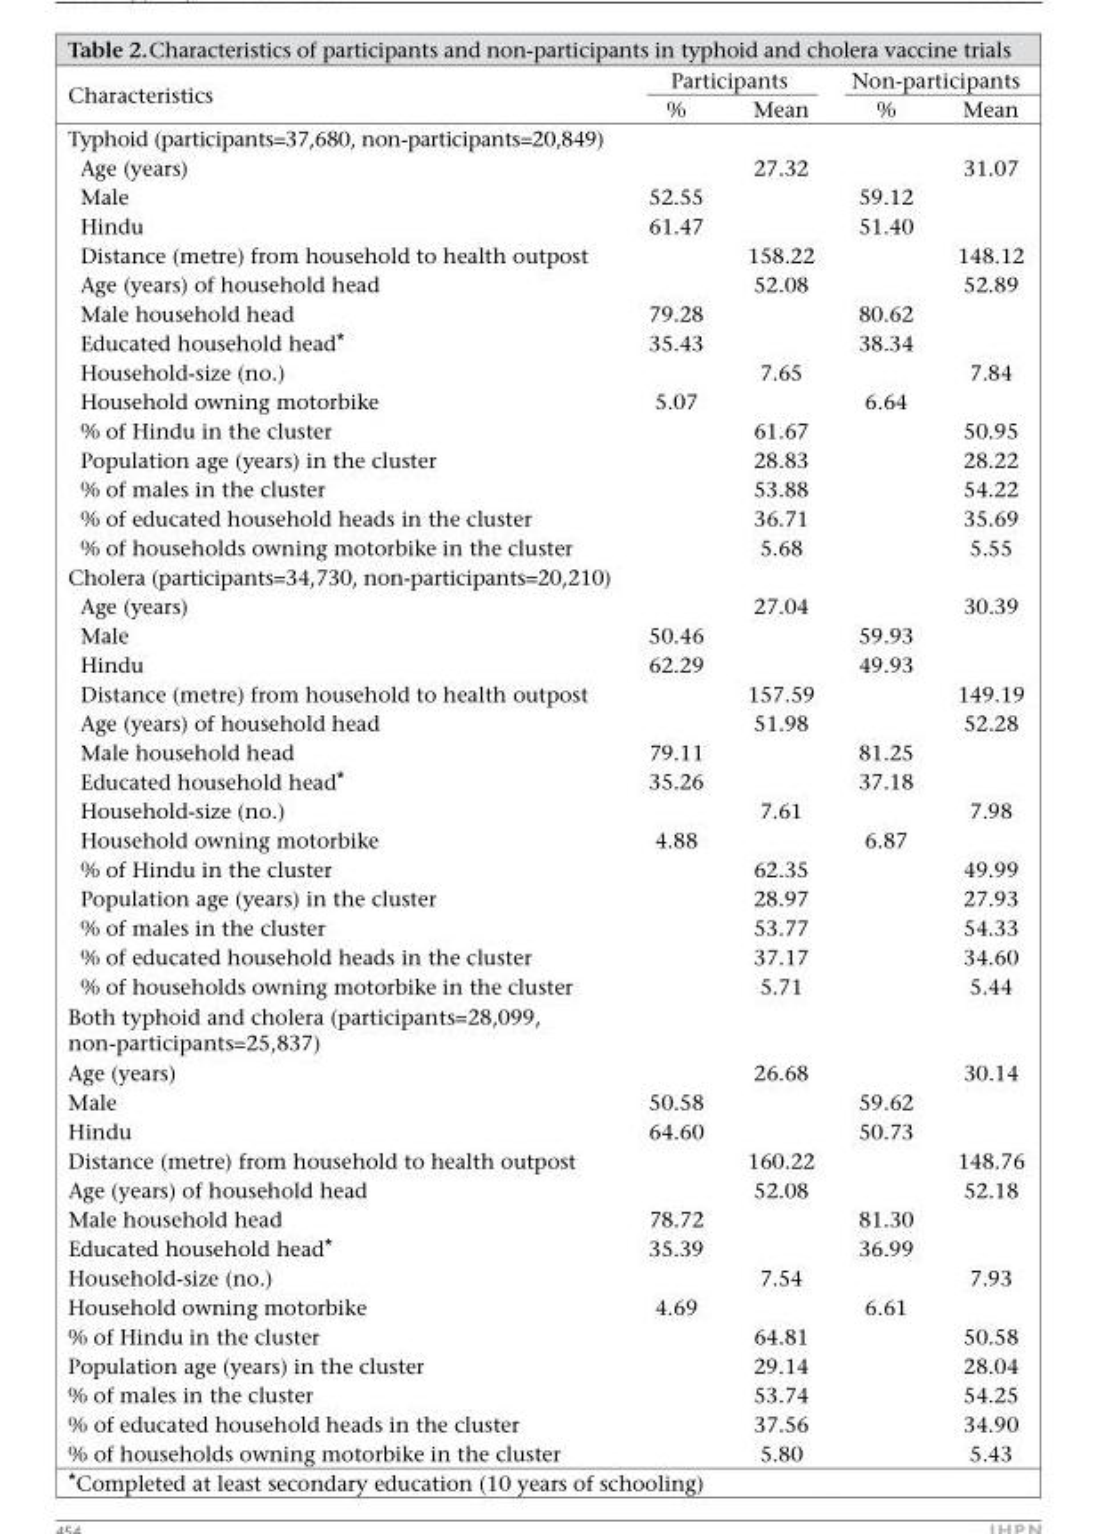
<table><thead><tr><td rowspan="2">Characteristics</td><td colspan="2">Participants</td><td colspan="2">Non-participants</td></tr><tr><td>%</td><td>Mean</td><td>%</td><td>Mean</td></tr></thead><tbody><tr><td colspan="5">Typhoid (participants=37,680, non-participants=20,849)</td></tr><tr><td>Age (years)</td><td></td><td>27.32</td><td></td><td>31.07</td></tr><tr><td>Male</td><td>52.55</td><td></td><td>59.12</td><td></td></tr><tr><td>Hindu</td><td>61.47</td><td></td><td>51.40</td><td></td></tr><tr><td>Distance (metre) from household to health outpost</td><td></td><td>158.22</td><td></td><td>148.12</td></tr><tr><td>Age (years) of household head</td><td></td><td>52.08</td><td></td><td>52.89</td></tr><tr><td>Male household head</td><td>79.28</td><td></td><td>80.62</td><td></td></tr><tr><td>Educated household head*</td><td>35.43</td><td></td><td>38.34</td><td></td></tr><tr><td>Household-size (no.)</td><td></td><td>7.65</td><td></td><td>7.84</td></tr><tr><td>Household owning motorbike</td><td>5.07</td><td></td><td>6.64</td><td></td></tr><tr><td>% of Hindu in the cluster</td><td></td><td>61.67</td><td></td><td>50.95</td></tr><tr><td>Population age (years) in the cluster</td><td></td><td>28.83</td><td></td><td>28.22</td></tr><tr><td>% of males in the cluster</td><td></td><td>53.88</td><td></td><td>54.22</td></tr><tr><td>% of educated household heads in the cluster</td><td></td><td>36.71</td><td></td><td>35.69</td></tr><tr><td>% of households owning motorbike in the cluster</td><td></td><td>5.68</td><td></td><td>5.55</td></tr><tr><td colspan="5">Cholera (participants=34,730, non-participants=20,210)</td></tr><tr><td>Age (years)</td><td></td><td>27.04</td><td></td><td>30.39</td></tr><tr><td>Male</td><td>50.46</td><td></td><td>59.93</td><td></td></tr><tr><td>Hindu</td><td>62.29</td><td></td><td>49.93</td><td></td></tr><tr><td>Distance (metre) from household to health outpost</td><td></td><td>157.59</td><td></td><td>149.19</td></tr><tr><td>Age (years) of household head</td><td></td><td>51.98</td><td></td><td>52.28</td></tr><tr><td>Male household head</td><td>79.11</td><td></td><td>81.25</td><td></td></tr><tr><td>Educated household head*</td><td>35.26</td><td></td><td>37.18</td><td></td></tr><tr><td>Household-size (no.)</td><td></td><td>7.61</td><td></td><td>7.98</td></tr><tr><td>Household owning motorbike</td><td>4.88</td><td></td><td>6.87</td><td></td></tr><tr><td>% of Hindu in the cluster</td><td></td><td>62.35</td><td></td><td>49.99</td></tr><tr><td>Population age (years) in the cluster</td><td></td><td>28.97</td><td></td><td>27.93</td></tr><tr><td>% of males in the cluster</td><td></td><td>53.77</td><td></td><td>54.33</td></tr><tr><td>% of educated household heads in the cluster</td><td></td><td>37.17</td><td></td><td>34.60</td></tr><tr><td>% of households owning motorbike in the cluster</td><td></td><td>5.71</td><td></td><td>5.44</td></tr><tr><td colspan="5">Both typhoid and cholera (participants=28,099, non-participants=25,837)</td></tr><tr><td>Age (years)</td><td></td><td>26.68</td><td></td><td>30.14</td></tr><tr><td>Male</td><td>50.58</td><td></td><td>59.62</td><td></td></tr><tr><td>Hindu</td><td>64.60</td><td></td><td>50.73</td><td></td></tr><tr><td>Distance (metre) from household to health outpost</td><td></td><td>160.22</td><td></td><td>148.76</td></tr><tr><td>Age (years) of household head</td><td></td><td>52.08</td><td></td><td>52.18</td></tr><tr><td>Male household head</td><td>78.72</td><td></td><td>81.30</td><td></td></tr><tr><td>Educated household head*</td><td>35.39</td><td></td><td>36.99</td><td></td></tr><tr><td>Household-size (no.)</td><td></td><td>7.54</td><td></td><td>7.93</td></tr><tr><td>Household owning motorbike</td><td>4.69</td><td></td><td>6.61</td><td></td></tr><tr><td>% of Hindu in the cluster</td><td></td><td>64.81</td><td></td><td>50.58</td></tr><tr><td>Population age (years) in the cluster</td><td></td><td>29.14</td><td></td><td>28.04</td></tr><tr><td>% of males in the cluster</td><td></td><td>53.74</td><td></td><td>54.25</td></tr><tr><td>% of educated household heads in the cluster</td><td></td><td>37.56</td><td></td><td>34.90</td></tr><tr><td>% of households owning motorbike in the cluster</td><td></td><td>5.80</td><td></td><td>5.43</td></tr></tbody></table>